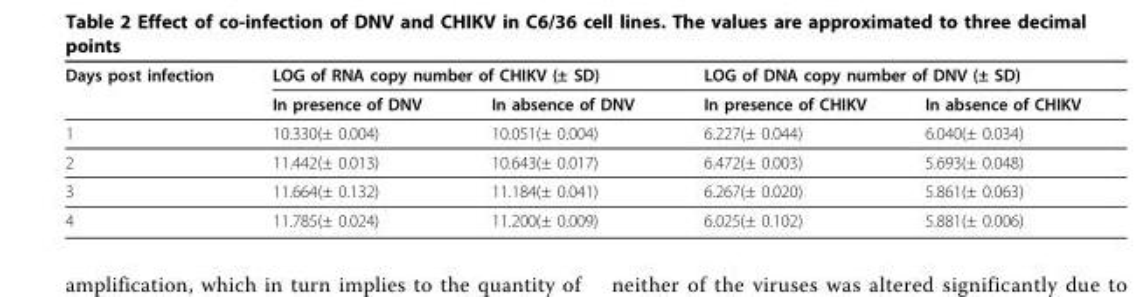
<table><thead><tr><td rowspan="2">Days post infection</td><td colspan="2">LOG of RNA copy number of CHIKV (± SD)</td><td colspan="2">LOG of DNA copy number of DNV (± SD)</td></tr><tr><td>In presence of DNV</td><td>In absence of DNV</td><td>In presence of CHIKV</td><td>In absence of CHIKV</td></tr></thead><tbody><tr><td>1</td><td>10.330(± 0.004)</td><td>10.051(± 0.004)</td><td>6.227(± 0.044)</td><td>6.040(± 0.034)</td></tr><tr><td>2</td><td>11.442(± 0.013)</td><td>10.643(± 0.017)</td><td>6.472(± 0.003)</td><td>5.693(± 0.048)</td></tr><tr><td>3</td><td>11.664(± 0.132)</td><td>11.184(± 0.041)</td><td>6.267(± 0.020)</td><td>5.861(± 0.063)</td></tr><tr><td>4</td><td>11.785(± 0.024)</td><td>11.200(± 0.009)</td><td>6.025(± 0.102)</td><td>5.881(± 0.006)</td></tr></tbody></table>